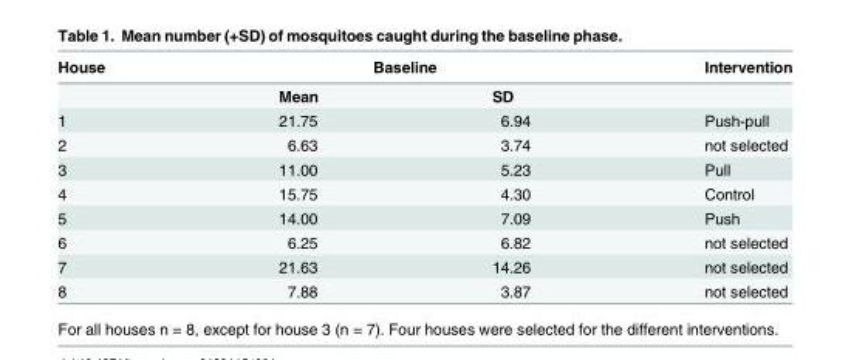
<table><thead><tr><td rowspan="2">House</td><td colspan="2">Baseline</td><td rowspan="2">Intervention</td></tr><tr><td>Mean</td><td>SD</td></tr></thead><tbody><tr><td>1</td><td>21.75</td><td>6.94</td><td>Push-pull</td></tr><tr><td>2</td><td>6.63</td><td>3.74</td><td>not selected</td></tr><tr><td>3</td><td>11.00</td><td>5.23</td><td>Pull</td></tr><tr><td>4</td><td>15.75</td><td>4.30</td><td>Control</td></tr><tr><td>5</td><td>14.00</td><td>7.09</td><td>Push</td></tr><tr><td>6</td><td>6.25</td><td>6.82</td><td>not selected</td></tr><tr><td>7</td><td>21.63</td><td>14.26</td><td>not selected</td></tr><tr><td>8</td><td>7.88</td><td>3.87</td><td>not selected</td></tr></tbody></table>